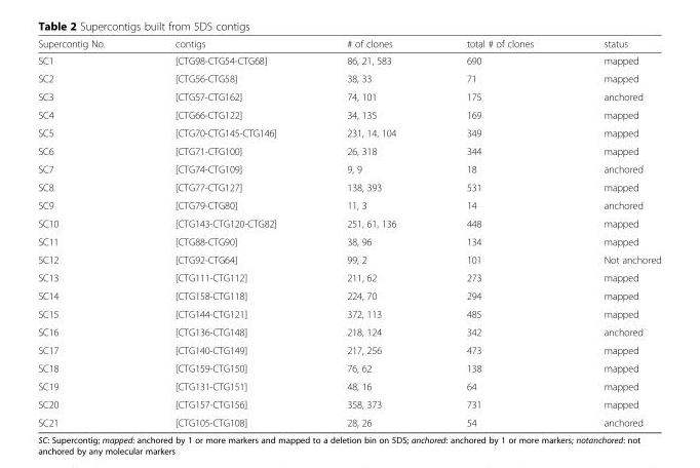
<table><thead><tr><td>Supercontig No.</td><td>contigs</td><td># of clones</td><td>total # of clones</td><td>status</td></tr></thead><tbody><tr><td>SC1</td><td>[CTG98-CTG54-CTG68]</td><td>86, 21, 583</td><td>690</td><td>mapped</td></tr><tr><td>SC2</td><td>[CTG56-CTG58]</td><td>38, 33</td><td>71</td><td>mapped</td></tr><tr><td>SC3</td><td>[CTG57-CTG162]</td><td>74, 101</td><td>175</td><td>anchored</td></tr><tr><td>SC4</td><td>[CTG66-CTG122]</td><td>34, 135</td><td>169</td><td>mapped</td></tr><tr><td>SC5</td><td>[CTG70-CTG145-CTG146]</td><td>231, 14, 104</td><td>349</td><td>mapped</td></tr><tr><td>SC6</td><td>[CTG71-CTG100]</td><td>26, 318</td><td>344</td><td>mapped</td></tr><tr><td>SC7</td><td>[CTG74-CTG109]</td><td>9, 9</td><td>18</td><td>anchored</td></tr><tr><td>SC8</td><td>[CTG77-CTG127]</td><td>138, 393</td><td>531</td><td>mapped</td></tr><tr><td>SC9</td><td>[CTG79-CTG80]</td><td>11, 3</td><td>14</td><td>anchored</td></tr><tr><td>SC10</td><td>[CTG143-CTG120-CTG82]</td><td>251, 61, 136</td><td>448</td><td>mapped</td></tr><tr><td>SC11</td><td>[CTG88-CTG90]</td><td>38, 96</td><td>134</td><td>mapped</td></tr><tr><td>SC12</td><td>[CTG92-CTG64]</td><td>99, 2</td><td>101</td><td>Not anchored</td></tr><tr><td>SC13</td><td>[CTG111-CTG112]</td><td>211, 62</td><td>273</td><td>mapped</td></tr><tr><td>SC14</td><td>[CTG158-CTG118]</td><td>224, 70</td><td>294</td><td>mapped</td></tr><tr><td>SC15</td><td>[CTG144-CTG121]</td><td>372, 113</td><td>485</td><td>mapped</td></tr><tr><td>SC16</td><td>[CTG136-CTG148]</td><td>218, 124</td><td>342</td><td>anchored</td></tr><tr><td>SC17</td><td>[CTG140-CTG149]</td><td>217, 256</td><td>473</td><td>mapped</td></tr><tr><td>SC18</td><td>[CTG159-CTG150]</td><td>76, 62</td><td>138</td><td>mapped</td></tr><tr><td>SC19</td><td>[CTG131-CTG151]</td><td>48, 16</td><td>64</td><td>mapped</td></tr><tr><td>SC20</td><td>[CTG157-CTG156]</td><td>358, 373</td><td>731</td><td>mapped</td></tr><tr><td>SC21</td><td>[CTG105-CTG108]</td><td>28, 26</td><td>54</td><td>anchored</td></tr></tbody></table>